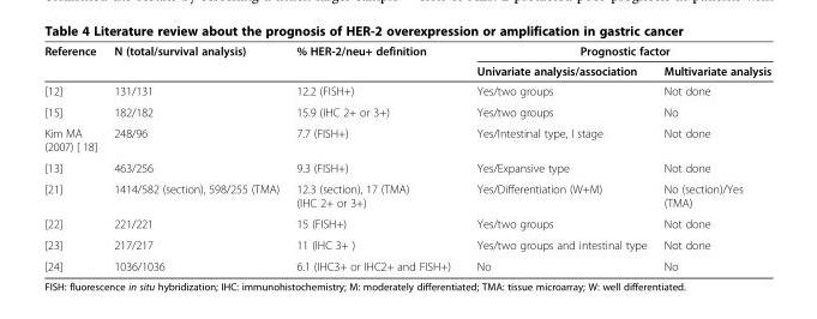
<table><thead><tr><td rowspan="2">Reference</td><td rowspan="2">N (total/survival analysis)</td><td rowspan="2">% HER-2/neu+ definition</td><td colspan="2">Prognostic factor</td></tr><tr><td>Univariate analysis/association</td><td>Multivariate analysis</td></tr></thead><tbody><tr><td>[12]</td><td>131/131</td><td>12.2 (FISH+)</td><td>Yes/two groups</td><td>Not done</td></tr><tr><td>[15]</td><td>182/182</td><td>15.9 (IHC 2+ or 3+)</td><td>Yes/two groups</td><td>No</td></tr><tr><td>Kim MA (2007) [ 18]</td><td>248/96</td><td>7.7 (FISH+)</td><td>Yes/Intestinal type, I stage</td><td>Not done</td></tr><tr><td>[13]</td><td>463/256</td><td>9.3 (FISH+)</td><td>Yes/Expansive type</td><td>Not done</td></tr><tr><td>[21]</td><td>1414/582 (section), 598/255 (TMA)</td><td>12.3 (section), 17 (TMA) (IHC 2+ or 3+)</td><td>Yes/Differentiation (W+M)</td><td>No (section)/Yes (TMA)</td></tr><tr><td>[22]</td><td>221/221</td><td>15 (FISH+)</td><td>Yes/two groups</td><td>Not done</td></tr><tr><td>[23]</td><td>217/217</td><td>11 (IHC 3+ )</td><td>Yes/two groups and intestinal type</td><td>Not done</td></tr><tr><td>[24]</td><td>1036/1036</td><td>6.1 (IHC3+ or IHC2+ and FISH+)</td><td>No</td><td>No</td></tr></tbody></table>